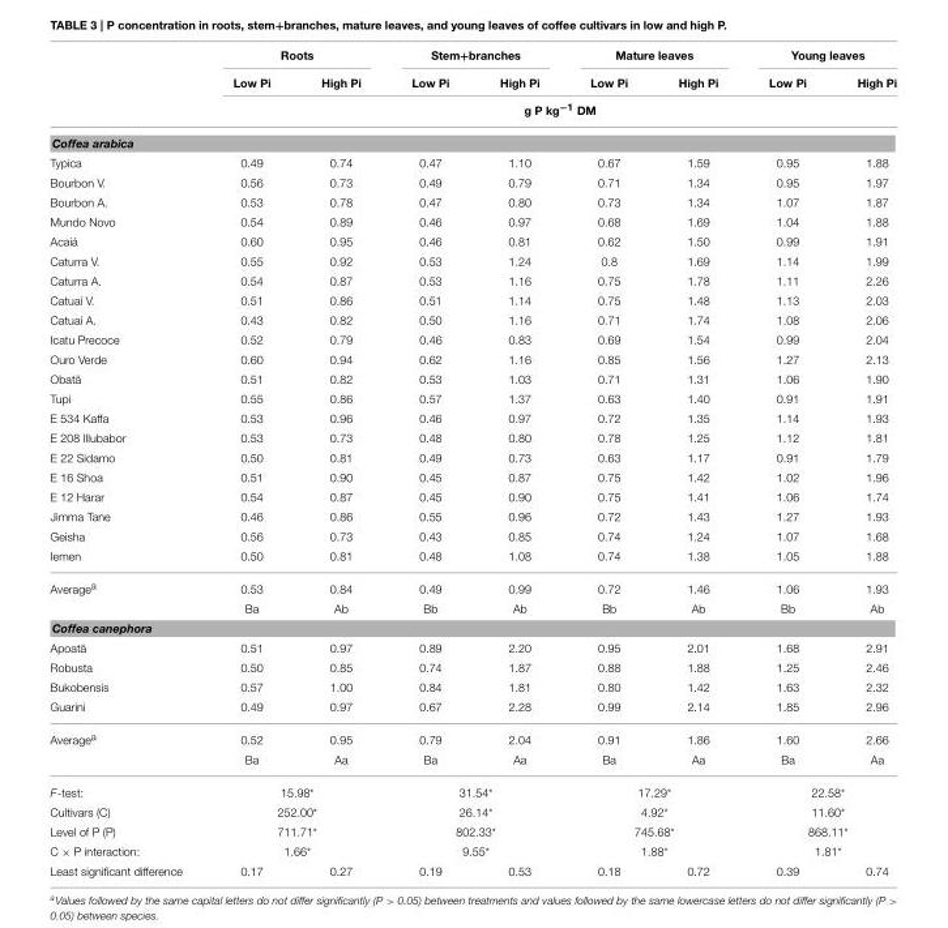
<table><thead><tr><td rowspan="3"></td><td colspan="2">Roots</td><td colspan="2">Stem+branches</td><td colspan="2">Mature leaves</td><td colspan="2">Young leaves</td></tr><tr><td>Low Pi</td><td>High Pi</td><td>Low Pi</td><td>High Pi</td><td>Low Pi</td><td>High Pi</td><td>Low Pi</td><td>High Pi</td></tr><tr><td colspan="8">g P kg<sup>−1</sup> DM</td></tr></thead><tbody><tr><td colspan="9">Coffea arabica</td></tr><tr><td>Typica</td><td>0.49</td><td>0.74</td><td>0.47</td><td>1.10</td><td>0.67</td><td>1.59</td><td>0.95</td><td>1.88</td></tr><tr><td>Bourbon V.</td><td>0.56</td><td>0.73</td><td>0.49</td><td>0.79</td><td>0.71</td><td>1.34</td><td>0.95</td><td>1.97</td></tr><tr><td>Bourbon A.</td><td>0.53</td><td>0.78</td><td>0.47</td><td>0.80</td><td>0.73</td><td>1.34</td><td>1.07</td><td>1.87</td></tr><tr><td>Mundo Novo</td><td>0.54</td><td>0.89</td><td>0.46</td><td>0.97</td><td>0.68</td><td>1.69</td><td>1.04</td><td>1.88</td></tr><tr><td>Acaiá</td><td>0.60</td><td>0.95</td><td>0.46</td><td>0.81</td><td>0.62</td><td>1.50</td><td>0.99</td><td>1.91</td></tr><tr><td>Caturra V.</td><td>0.55</td><td>0.92</td><td>0.53</td><td>1.24</td><td>0.8</td><td>1.69</td><td>1.14</td><td>1.99</td></tr><tr><td>Caturra A.</td><td>0.54</td><td>0.87</td><td>0.53</td><td>1.16</td><td>0.75</td><td>1.78</td><td>1.11</td><td>2.26</td></tr><tr><td>Catuaí V.</td><td>0.51</td><td>0.86</td><td>0.51</td><td>1.14</td><td>0.75</td><td>1.48</td><td>1.13</td><td>2.03</td></tr><tr><td>Catuaí A.</td><td>0.43</td><td>0.82</td><td>0.50</td><td>1.16</td><td>0.71</td><td>1.74</td><td>1.08</td><td>2.06</td></tr><tr><td>Icatu Precoce</td><td>0.52</td><td>0.79</td><td>0.46</td><td>0.83</td><td>0.69</td><td>1.54</td><td>0.99</td><td>2.04</td></tr><tr><td>Ouro Verde</td><td>0.60</td><td>0.94</td><td>0.62</td><td>1.16</td><td>0.85</td><td>1.56</td><td>1.27</td><td>2.13</td></tr><tr><td>Obatã</td><td>0.51</td><td>0.82</td><td>0.53</td><td>1.03</td><td>0.71</td><td>1.31</td><td>1.06</td><td>1.90</td></tr><tr><td>Tupi</td><td>0.55</td><td>0.86</td><td>0.57</td><td>1.37</td><td>0.63</td><td>1.40</td><td>0.91</td><td>1.91</td></tr><tr><td>E 534 Kaffa</td><td>0.53</td><td>0.96</td><td>0.46</td><td>0.97</td><td>0.72</td><td>1.35</td><td>1.14</td><td>1.93</td></tr><tr><td>E 208 Illubabor</td><td>0.53</td><td>0.73</td><td>0.48</td><td>0.80</td><td>0.78</td><td>1.25</td><td>1.12</td><td>1.81</td></tr><tr><td>E 22 Sidamo</td><td>0.50</td><td>0.81</td><td>0.49</td><td>0.73</td><td>0.63</td><td>1.17</td><td>0.91</td><td>1.79</td></tr><tr><td>E 16 Shoa</td><td>0.51</td><td>0.90</td><td>0.45</td><td>0.87</td><td>0.75</td><td>1.42</td><td>1.02</td><td>1.96</td></tr><tr><td>E 12 Harar</td><td>0.54</td><td>0.87</td><td>0.45</td><td>0.90</td><td>0.75</td><td>1.41</td><td>1.06</td><td>1.74</td></tr><tr><td>Jimma Tane</td><td>0.46</td><td>0.86</td><td>0.55</td><td>0.96</td><td>0.72</td><td>1.43</td><td>1.27</td><td>1.93</td></tr><tr><td>Geisha</td><td>0.56</td><td>0.73</td><td>0.43</td><td>0.85</td><td>0.74</td><td>1.24</td><td>1.07</td><td>1.68</td></tr><tr><td>Iemen</td><td>0.50</td><td>0.81</td><td>0.48</td><td>1.08</td><td>0.74</td><td>1.38</td><td>1.05</td><td>1.88</td></tr><tr><td rowspan="2">Average<sup>a</sup></td><td>0.53</td><td>0.84</td><td>0.49</td><td>0.99</td><td>0.72</td><td>1.46</td><td>1.06</td><td>1.93</td></tr><tr><td>Ba</td><td>Ab</td><td>Bb</td><td>Ab</td><td>Bb</td><td>Ab</td><td>Bb</td><td>Ab</td></tr><tr><td colspan="9">Coffea canephora</td></tr><tr><td>Apoatã</td><td>0.51</td><td>0.97</td><td>0.89</td><td>2.20</td><td>0.95</td><td>2.01</td><td>1.68</td><td>2.91</td></tr><tr><td>Robusta</td><td>0.50</td><td>0.85</td><td>0.74</td><td>1.87</td><td>0.88</td><td>1.88</td><td>1.25</td><td>2.46</td></tr><tr><td>Bukobensis</td><td>0.57</td><td>1.00</td><td>0.84</td><td>1.81</td><td>0.80</td><td>1.42</td><td>1.63</td><td>2.32</td></tr><tr><td>Guarini</td><td>0.49</td><td>0.97</td><td>0.67</td><td>2.28</td><td>0.99</td><td>2.14</td><td>1.85</td><td>2.96</td></tr><tr><td rowspan="2">Average<sup>a</sup></td><td>0.52</td><td>0.95</td><td>0.79</td><td>2.04</td><td>0.91</td><td>1.86</td><td>1.60</td><td>2.66</td></tr><tr><td>Ba</td><td>Aa</td><td>Ba</td><td>Aa</td><td>Ba</td><td>Aa</td><td>Ba</td><td>Aa</td></tr><tr><td>F-test:</td><td colspan="2">15.98*</td><td colspan="2">31.54*</td><td colspan="2">17.29*</td><td colspan="2">22.58*</td></tr><tr><td>Cultivars (C)</td><td colspan="2">252.00*</td><td colspan="2">26.14*</td><td colspan="2">4.92*</td><td colspan="2">11.60*</td></tr><tr><td>Level of P (P)</td><td colspan="2">711.71*</td><td colspan="2">802.33*</td><td colspan="2">745.68*</td><td colspan="2">868.11*</td></tr><tr><td>C × P interaction:</td><td colspan="2">1.66*</td><td colspan="2">9.55*</td><td colspan="2">1.88*</td><td colspan="2">1.81*</td></tr><tr><td>Least significant difference</td><td>0.17</td><td>0.27</td><td>0.19</td><td>0.53</td><td>0.18</td><td>0.72</td><td>0.39</td><td>0.74</td></tr></tbody></table>